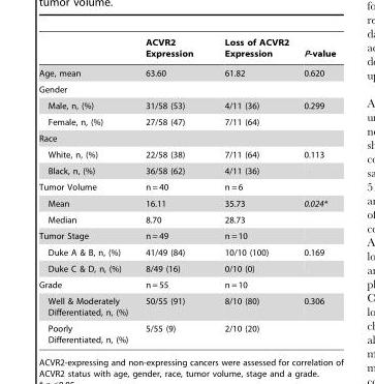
<table><thead><tr><td></td><td>ACVR2 Expression</td><td>Loss of ACVR2 Expression</td><td>P-value</td></tr></thead><tbody><tr><td>Age, mean</td><td>63.60</td><td>61.82</td><td>0.620</td></tr><tr><td colspan="4">Gender</td></tr><tr><td>Male, n, (%)</td><td>31/58 (53)</td><td>4/11 (36)</td><td>0.299</td></tr><tr><td>Female, n, (%)</td><td>27/58 (47)</td><td>7/11 (64)</td><td></td></tr><tr><td colspan="4">Race</td></tr><tr><td>White, n, (%)</td><td>22/58 (38)</td><td>7/11 (64)</td><td>0.113</td></tr><tr><td>Black, n, (%)</td><td>36/58 (62)</td><td>4/11 (36)</td><td></td></tr><tr><td>Tumor Volume</td><td>n = 40</td><td>n = 6</td><td></td></tr><tr><td>Mean</td><td>16.11</td><td>35.73</td><td>0.024*</td></tr><tr><td>Median</td><td>8.70</td><td>28.73</td><td></td></tr><tr><td>Tumor Stage</td><td>n = 49</td><td>n = 10</td><td></td></tr><tr><td>Duke A &amp; B, n, (%)</td><td>41/49 (84)</td><td>10/10 (100)</td><td>0.169</td></tr><tr><td>Duke C &amp; D, n, (%)</td><td>8/49 (16)</td><td>0/10 (0)</td><td></td></tr><tr><td>Grade</td><td>n = 55</td><td>n = 10</td><td></td></tr><tr><td>Well &amp; Moderately Differentiated, n, (%)</td><td>50/55 (91)</td><td>8/10 (80)</td><td>0.306</td></tr><tr><td>Poorly Differentiated, n, (%)</td><td>5/55 (9)</td><td>2/10 (20)</td><td></td></tr></tbody></table>